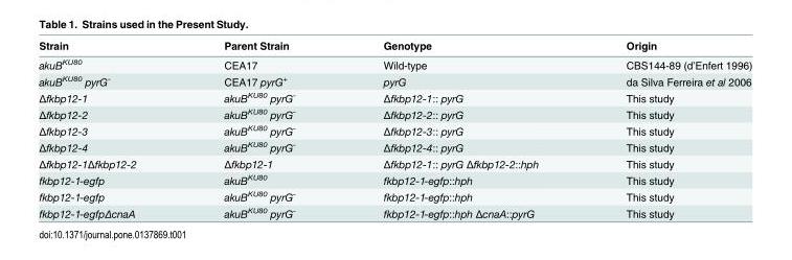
<table><thead><tr><td>Strain</td><td>Parent Strain</td><td>Genotype</td><td>Origin</td></tr></thead><tbody><tr><td>akuB<sup>KU80</sup></td><td>CEA17</td><td>Wild-type</td><td>CBS144-89 (d’Enfert 1996)</td></tr><tr><td>akuB<sup>KU80</sup> pyrG<sup>-</sup></td><td>CEA17 pyrG<sup>+</sup></td><td>pyrG</td><td>da Silva Ferreira et al 2006</td></tr><tr><td>Δfkbp12-1</td><td>akuB<sup>KU80</sup> pyrG<sup>-</sup></td><td>Δfkbp12-1:: pyrG</td><td>This study</td></tr><tr><td>Δfkbp12-2</td><td>akuB<sup>KU80</sup> pyrG<sup>-</sup></td><td>Δfkbp12-2:: pyrG</td><td>This study</td></tr><tr><td>Δfkbp12-3</td><td>akuB<sup>KU80</sup> pyrG<sup>-</sup></td><td>Δfkbp12-3:: pyrG</td><td>This study</td></tr><tr><td>Δfkbp12-4</td><td>akuB<sup>KU80</sup> pyrG<sup>-</sup></td><td>Δfkbp12-4:: pyrG</td><td>This study</td></tr><tr><td>Δfkbp12-1Δfkbp12-2</td><td>Δfkbp12-1</td><td>Δfkbp12-1:: pyrG Δfkbp12-2::hph</td><td>This study</td></tr><tr><td>fkbp12-1-egfp</td><td>akuB<sup>KU80</sup></td><td>fkbp12-1-egfp::hph</td><td>This study</td></tr><tr><td>fkbp12-1-egfp</td><td>akuB<sup>KU80</sup> pyrG<sup>-</sup></td><td>fkbp12-1-egfp::hph</td><td>This study</td></tr><tr><td>fkbp12-1-egfpΔcnaA</td><td>akuB<sup>KU80</sup> pyrG<sup>-</sup></td><td>fkbp12-1-egfp::hph ΔcnaA::pyrG</td><td>This study</td></tr></tbody></table>